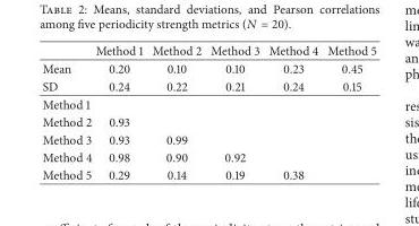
<table><thead><tr><td></td><td>Method 1</td><td>Method 2</td><td>Method 3</td><td>Method 4</td><td>Method 5</td></tr></thead><tbody><tr><td>Mean</td><td>0.20</td><td>0.10</td><td>0.10</td><td>0.23</td><td>0.45</td></tr><tr><td>SD</td><td>0.24</td><td>0.22</td><td>0.21</td><td>0.24</td><td>0.15</td></tr><tr><td colspan="6">Method 1</td></tr><tr><td>Method 2</td><td>0.93</td><td></td><td></td><td></td><td></td></tr><tr><td>Method 3</td><td>0.93</td><td>0.99</td><td></td><td></td><td></td></tr><tr><td>Method 4</td><td>0.98</td><td>0.90</td><td>0.92</td><td></td><td></td></tr><tr><td>Method 5</td><td>0.29</td><td>0.14</td><td>0.19</td><td>0.38</td><td></td></tr></tbody></table>